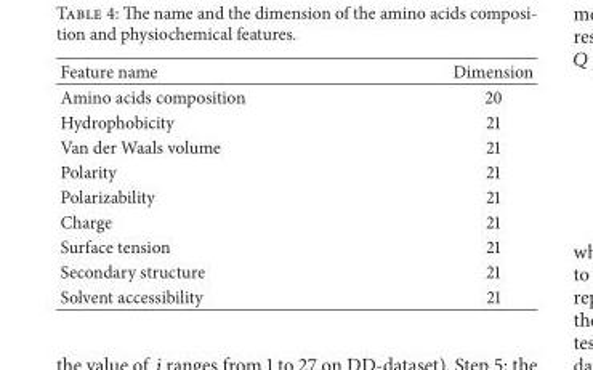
<table><thead><tr><td>Feature name</td><td>Dimension</td></tr></thead><tbody><tr><td>Amino acids composition</td><td>20</td></tr><tr><td>Hydrophobicity</td><td>21</td></tr><tr><td>Van der Waals volume</td><td>21</td></tr><tr><td>Polarity</td><td>21</td></tr><tr><td>Polarizability</td><td>21</td></tr><tr><td>Charge</td><td>21</td></tr><tr><td>Surface tension</td><td>21</td></tr><tr><td>Secondary structure</td><td>21</td></tr><tr><td>Solvent accessibility</td><td>21</td></tr></tbody></table>